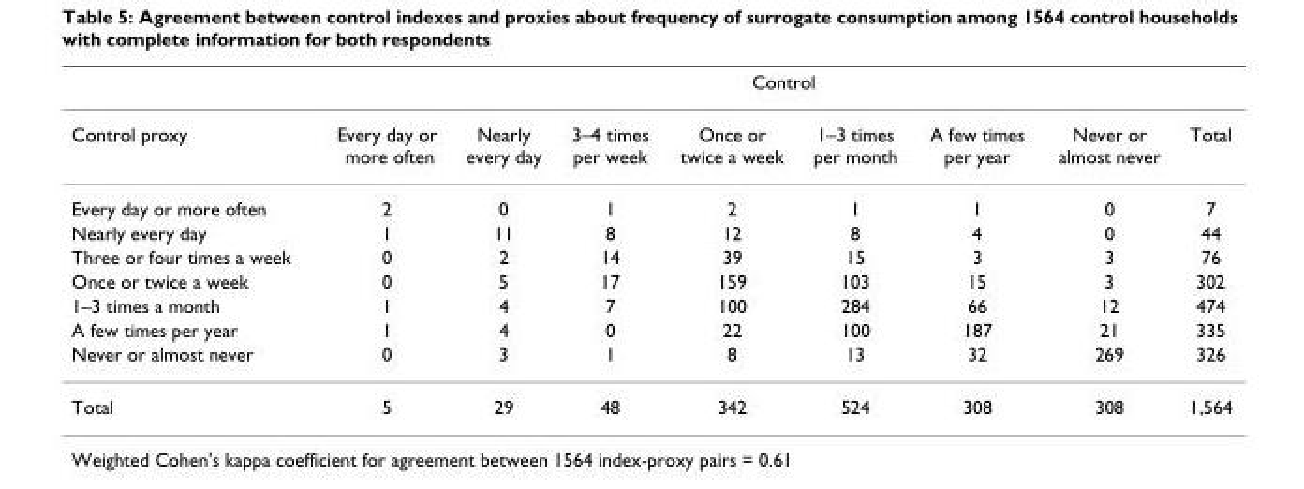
<table><thead><tr><td rowspan="2">Control proxy</td><td colspan="8">Control</td></tr><tr><td>Every day or more often</td><td>Nearly every day</td><td>3–4 times per week</td><td>Once or twice a week</td><td>1–3 times per month</td><td>A few times per year</td><td>Never or almost never</td><td>Total</td></tr></thead><tbody><tr><td>Every day or more often</td><td>2</td><td>0</td><td>1</td><td>2</td><td>1</td><td>1</td><td>0</td><td>7</td></tr><tr><td>Nearly every day</td><td>1</td><td>11</td><td>8</td><td>12</td><td>8</td><td>4</td><td>0</td><td>44</td></tr><tr><td>Three or four times a week</td><td>0</td><td>2</td><td>14</td><td>39</td><td>15</td><td>3</td><td>3</td><td>76</td></tr><tr><td>Once or twice a week</td><td>0</td><td>5</td><td>17</td><td>159</td><td>103</td><td>15</td><td>3</td><td>302</td></tr><tr><td>1–3 times a month</td><td>1</td><td>4</td><td>7</td><td>100</td><td>284</td><td>66</td><td>12</td><td>474</td></tr><tr><td>A few times per year</td><td>1</td><td>4</td><td>0</td><td>22</td><td>100</td><td>187</td><td>21</td><td>335</td></tr><tr><td>Never or almost never</td><td>0</td><td>3</td><td>1</td><td>8</td><td>13</td><td>32</td><td>269</td><td>326</td></tr><tr><td>Total</td><td>5</td><td>29</td><td>48</td><td>342</td><td>524</td><td>308</td><td>308</td><td>1,564</td></tr></tbody></table>